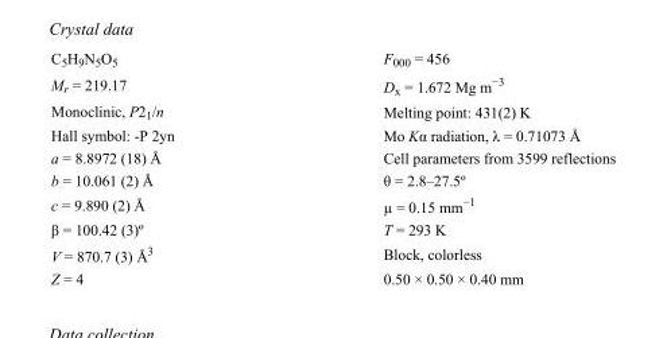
<table><tbody><tr><td>C<sub>5</sub>H<sub>9</sub>N<sub>5</sub>O<sub>5</sub></td><td>F000 = 456</td></tr><tr><td>M<sub>r</sub> = 219.17</td><td>D<sub>x</sub> = 1.672 Mg m<sup>−3</sup></td></tr><tr><td>Monoclinic, P2<sub>1</sub>/n</td><td>Melting point: 431(2) K</td></tr><tr><td>Hall symbol: -P 2yn</td><td>Mo Kα radiation, λ = 0.71073 Å</td></tr><tr><td>a = 8.8972 (18) Å</td><td>Cell parameters from 3599 reflections</td></tr><tr><td>b = 10.061 (2) Å</td><td>θ = 2.8–27.5º</td></tr><tr><td>c = 9.890 (2) Å</td><td>µ = 0.15 mm<sup>−1</sup></td></tr><tr><td>β = 100.42 (3)º</td><td>T = 293 K</td></tr><tr><td>V = 870.7 (3) Å<sup>3</sup></td><td>Block, colorless</td></tr><tr><td>Z = 4</td><td>0.50 × 0.50 × 0.40 mm</td></tr></tbody></table>